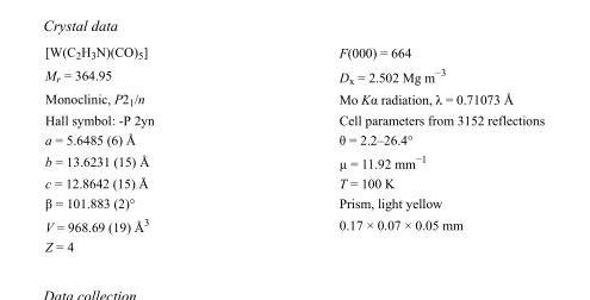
<table><tbody><tr><td>[W(C<sub>2</sub>H<sub>3</sub>N)(CO)<sub>5</sub>]</td><td>F(000) = 664</td></tr><tr><td>M<sub>r</sub> = 364.95</td><td>D<sub>x</sub> = 2.502 Mg m<sup>−3</sup></td></tr><tr><td>Monoclinic, P2<sub>1</sub>/n</td><td>Mo Kα radiation, λ = 0.71073 Å</td></tr><tr><td>Hall symbol: -P 2yn</td><td>Cell parameters from 3152 reflections</td></tr><tr><td>a = 5.6485 (6) Å</td><td>θ = 2.2–26.4°</td></tr><tr><td>b = 13.6231 (15) Å</td><td>µ = 11.92 mm<sup>−1</sup></td></tr><tr><td>c = 12.8642 (15) Å</td><td>T = 100 K</td></tr><tr><td>β = 101.883 (2)°</td><td>Prism, light yellow</td></tr><tr><td>V = 968.69 (19) Å<sup>3</sup></td><td>0.17 × 0.07 × 0.05 mm</td></tr><tr><td>Z = 4</td><td></td></tr></tbody></table>